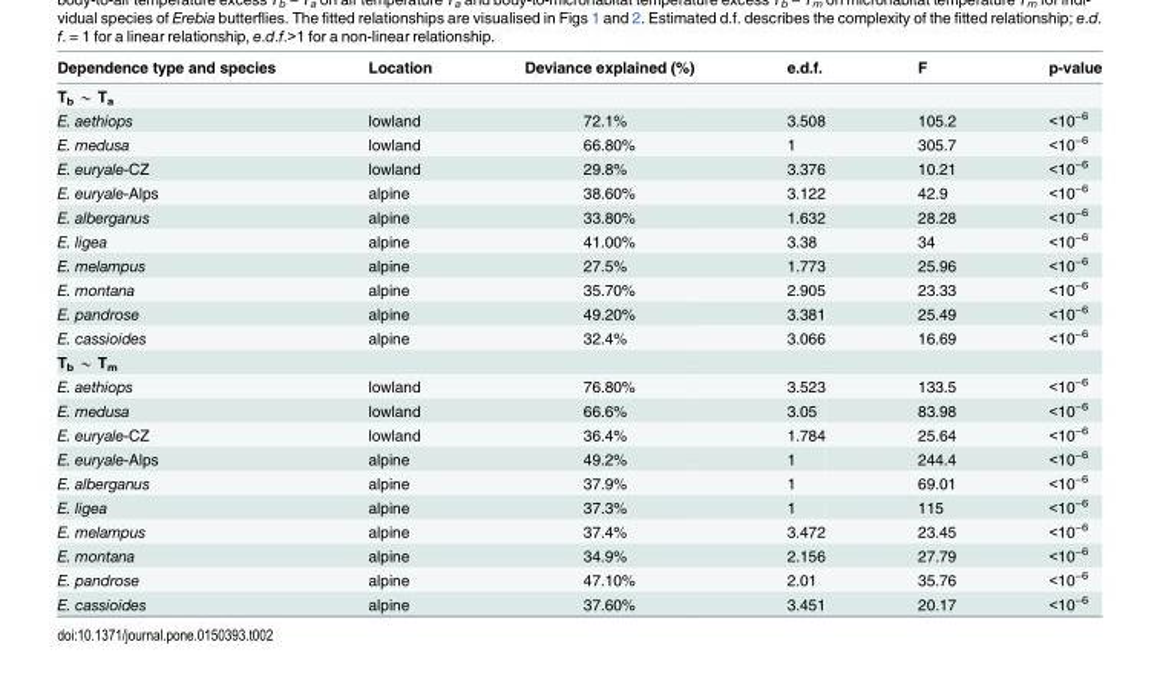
<table><thead><tr><td>Dependence type and species</td><td>Location</td><td>Deviance explained (%)</td><td>e.d.f.</td><td>F</td><td>p-value</td></tr></thead><tbody><tr><td colspan="6">Tb * Ta</td></tr><tr><td>E. aethiops</td><td>lowland</td><td>72.1%</td><td>3.508</td><td>105.2</td><td>&lt;10<sup>−6</sup></td></tr><tr><td>E. medusa</td><td>lowland</td><td>66.80%</td><td>1</td><td>305.7</td><td>&lt;10<sup>−6</sup></td></tr><tr><td>E. euryale-CZ</td><td>lowland</td><td>29.8%</td><td>3.376</td><td>10.21</td><td>&lt;10<sup>−6</sup></td></tr><tr><td>E. euryale-Alps</td><td>alpine</td><td>38.60%</td><td>3.122</td><td>42.9</td><td>&lt;10<sup>−6</sup></td></tr><tr><td>E. alberganus</td><td>alpine</td><td>33.80%</td><td>1.632</td><td>28.28</td><td>&lt;10<sup>−6</sup></td></tr><tr><td>E. ligea</td><td>alpine</td><td>41.00%</td><td>3.38</td><td>34</td><td>&lt;10<sup>−6</sup></td></tr><tr><td>E. melampus</td><td>alpine</td><td>27.5%</td><td>1.773</td><td>25.96</td><td>&lt;10<sup>−6</sup></td></tr><tr><td>E. montana</td><td>alpine</td><td>35.70%</td><td>2.905</td><td>23.33</td><td>&lt;10<sup>−6</sup></td></tr><tr><td>E. pandrose</td><td>alpine</td><td>49.20%</td><td>3.381</td><td>25.49</td><td>&lt;10<sup>−6</sup></td></tr><tr><td>E. cassioides</td><td>alpine</td><td>32.4%</td><td>3.066</td><td>16.69</td><td>&lt;10<sup>−6</sup></td></tr><tr><td colspan="6">Tb * Tm</td></tr><tr><td>E. aethiops</td><td>lowland</td><td>76.80%</td><td>3.523</td><td>133.5</td><td>&lt;10<sup>−6</sup></td></tr><tr><td>E. medusa</td><td>lowland</td><td>66.6%</td><td>3.05</td><td>83.98</td><td>&lt;10<sup>−6</sup></td></tr><tr><td>E. euryale-CZ</td><td>lowland</td><td>36.4%</td><td>1.784</td><td>25.64</td><td>&lt;10<sup>−6</sup></td></tr><tr><td>E. euryale-Alps</td><td>alpine</td><td>49.2%</td><td>1</td><td>244.4</td><td>&lt;10<sup>−6</sup></td></tr><tr><td>E. alberganus</td><td>alpine</td><td>37.9%</td><td>1</td><td>69.01</td><td>&lt;10<sup>−6</sup></td></tr><tr><td>E. ligea</td><td>alpine</td><td>37.3%</td><td>1</td><td>115</td><td>&lt;10<sup>−6</sup></td></tr><tr><td>E. melampus</td><td>alpine</td><td>37.4%</td><td>3.472</td><td>23.45</td><td>&lt;10<sup>−6</sup></td></tr><tr><td>E. montana</td><td>alpine</td><td>34.9%</td><td>2.156</td><td>27.79</td><td>&lt;10<sup>−6</sup></td></tr><tr><td>E. pandrose</td><td>alpine</td><td>47.10%</td><td>2.01</td><td>35.76</td><td>&lt;10<sup>−6</sup></td></tr><tr><td>E. cassioides</td><td>alpine</td><td>37.60%</td><td>3.451</td><td>20.17</td><td>&lt;10<sup>−6</sup></td></tr></tbody></table>